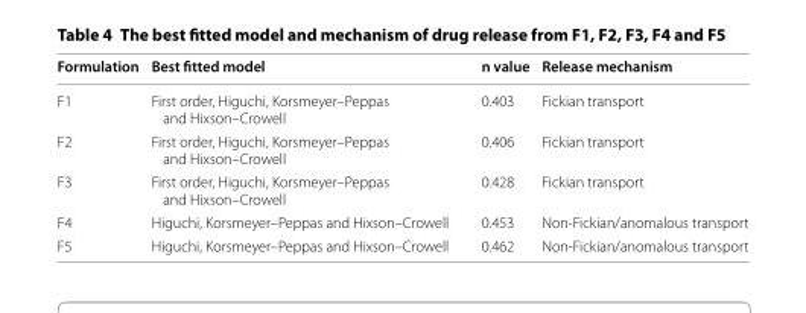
<table><thead><tr><td>Formulation</td><td>Best fitted model</td><td>n value</td><td>Release mechanism</td></tr></thead><tbody><tr><td>F1</td><td>First order, Higuchi, Korsmeyer–Peppas and Hixson–Crowell</td><td>0.403</td><td>Fickian transport</td></tr><tr><td>F2</td><td>First order, Higuchi, Korsmeyer–Peppas and Hixson–Crowell</td><td>0.406</td><td>Fickian transport</td></tr><tr><td>F3</td><td>First order, Higuchi, Korsmeyer–Peppas and Hixson–Crowell</td><td>0.428</td><td>Fickian transport</td></tr><tr><td>F4</td><td>Higuchi, Korsmeyer–Peppas and Hixson–Crowell</td><td>0.453</td><td>Non-Fickian/anomalous transport</td></tr><tr><td>F5</td><td>Higuchi, Korsmeyer–Peppas and Hixson–Crowell</td><td>0.462</td><td>Non-Fickian/anomalous transport</td></tr></tbody></table>